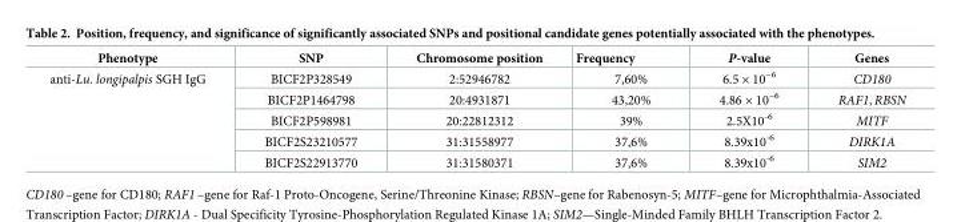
<table><thead><tr><td>Phenotype</td><td>SNP</td><td>Chromosome position</td><td>Frequency</td><td>P-value</td><td>Genes</td></tr></thead><tbody><tr><td rowspan="5">anti-Lu. longipalpis SGH IgG</td><td>BICF2P328549</td><td>2:52946782</td><td>7,60%</td><td>6.5 × 10<sup>−6</sup></td><td>CD180</td></tr><tr><td>BICF2P1464798</td><td>20:4931871</td><td>43,20%</td><td>4.86 × 10<sup>−6</sup></td><td>RAF1, RBSN</td></tr><tr><td>BICF2P598981</td><td>20:22812312</td><td>39%</td><td>2.5X10<sup>-6</sup></td><td>MITF</td></tr><tr><td>BICF2S23210577</td><td>31:31558977</td><td>37,6%</td><td>8.39x10<sup>-6</sup></td><td>DIRK1A</td></tr><tr><td>BICF2S22913770</td><td>31:31580371</td><td>37,6%</td><td>8.39x10<sup>-6</sup></td><td>SIM2</td></tr></tbody></table>